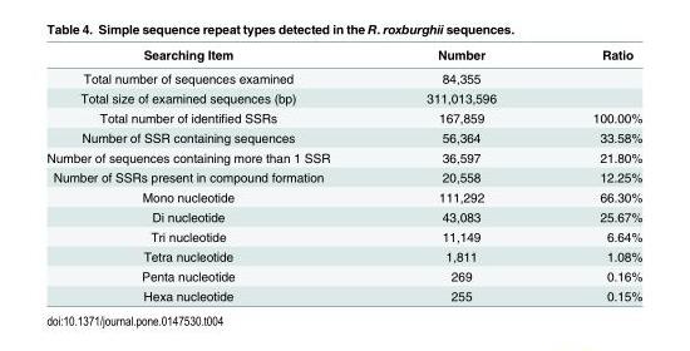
<table><thead><tr><td>Searching Item</td><td>Number</td><td>Ratio</td></tr></thead><tbody><tr><td>Total number of sequences examined</td><td>84,355</td><td></td></tr><tr><td>Total size of examined sequences (bp)</td><td>311,013,596</td><td></td></tr><tr><td>Total number of identified SSRs</td><td>167,859</td><td>100.00%</td></tr><tr><td>Number of SSR containing sequences</td><td>56,364</td><td>33.58%</td></tr><tr><td>Number of sequences containing more than 1 SSR</td><td>36,597</td><td>21.80%</td></tr><tr><td>Number of SSRs present in compound formation</td><td>20,558</td><td>12.25%</td></tr><tr><td>Mono nucleotide</td><td>111,292</td><td>66.30%</td></tr><tr><td>Di nucleotide</td><td>43,083</td><td>25.67%</td></tr><tr><td>Tri nucleotide</td><td>11,149</td><td>6.64%</td></tr><tr><td>Tetra nucleotide</td><td>1,811</td><td>1.08%</td></tr><tr><td>Penta nucleotide</td><td>269</td><td>0.16%</td></tr><tr><td>Hexa nucleotide</td><td>255</td><td>0.15%</td></tr></tbody></table>